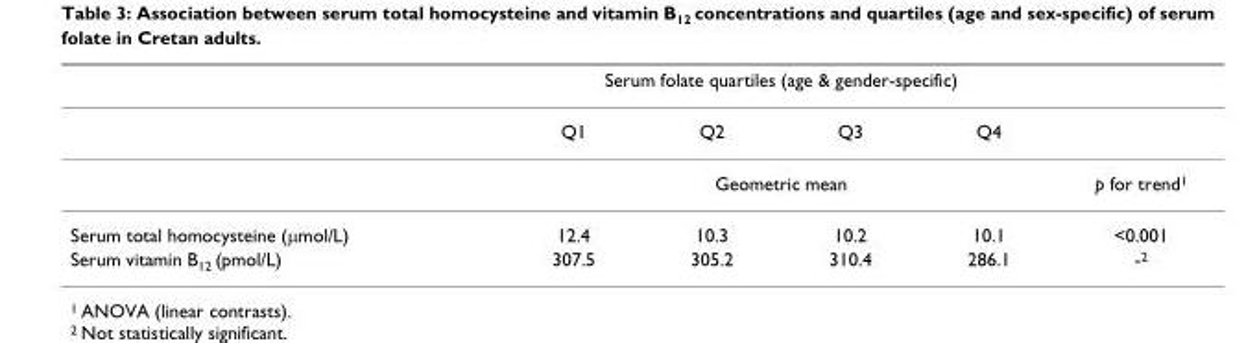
<table><thead><tr><td rowspan="2"></td><td colspan="4">Serum folate quartiles (age &amp; gender-specific)</td><td rowspan="2"></td></tr><tr><td>Q1</td><td>Q2</td><td>Q3</td><td>Q4</td></tr></thead><tbody><tr><td></td><td colspan="4">Geometric mean</td><td>p for trend<sup>1</sup></td></tr><tr><td>Serum total homocysteine (µmol/L)</td><td>12.4</td><td>10.3</td><td>10.2</td><td>10.1</td><td>&lt;0.001</td></tr><tr><td>Serum vitamin B<sub>12</sub> (pmol/L)</td><td>307.5</td><td>305.2</td><td>310.4</td><td>286.1</td><td>-<sup>2</sup></td></tr></tbody></table>